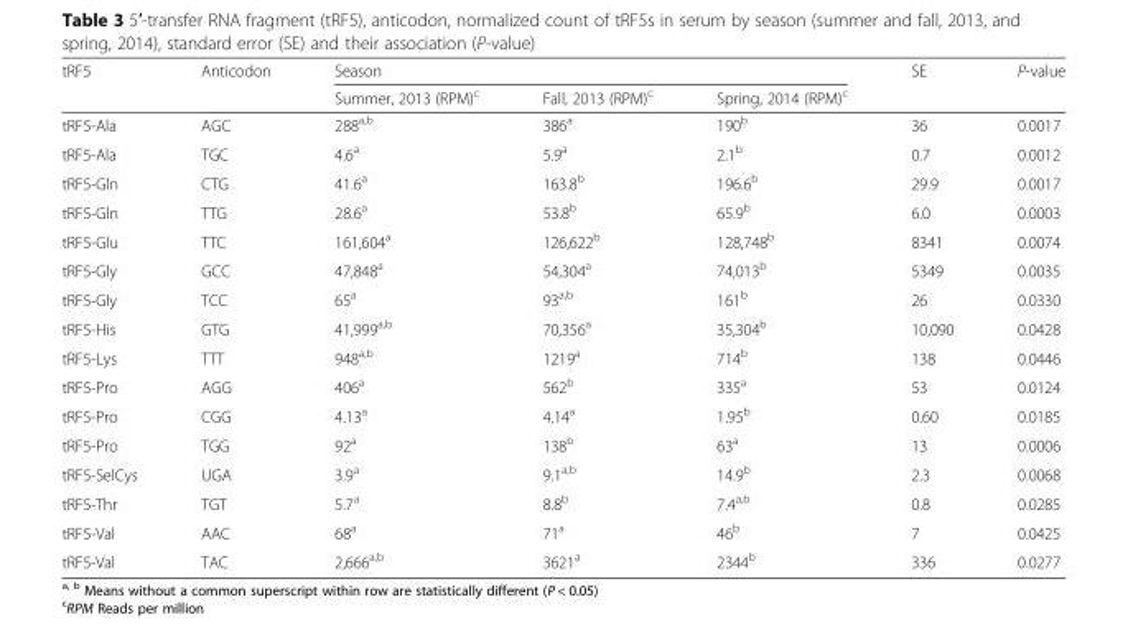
<table><thead><tr><td rowspan="2">tRF5</td><td rowspan="2">Anticodon</td><td colspan="3">Season</td><td rowspan="2">SE</td><td rowspan="2">P-value</td></tr><tr><td>Summer, 2013 (RPM)<sup>c</sup></td><td>Fall, 2013 (RPM)<sup>c</sup></td><td>Spring, 2014 (RPM)<sup>c</sup></td></tr></thead><tbody><tr><td>tRF5-Ala</td><td>AGC</td><td>288<sup>a,b</sup></td><td>386<sup>a</sup></td><td>190<sup>b</sup></td><td>36</td><td>0.0017</td></tr><tr><td>tRF5-Ala</td><td>TGC</td><td>4.6<sup>a</sup></td><td>5.9<sup>a</sup></td><td>2.1<sup>b</sup></td><td>0.7</td><td>0.0012</td></tr><tr><td>tRF5-Gln</td><td>CTG</td><td>41.6<sup>a</sup></td><td>163.8<sup>b</sup></td><td>196.6<sup>b</sup></td><td>29.9</td><td>0.0017</td></tr><tr><td>tRF5-Gln</td><td>TTG</td><td>28.6<sup>a</sup></td><td>53.8<sup>b</sup></td><td>65.9<sup>b</sup></td><td>6.0</td><td>0.0003</td></tr><tr><td>tRF5-Glu</td><td>TTC</td><td>161,604<sup>a</sup></td><td>126,622<sup>b</sup></td><td>128,748<sup>b</sup></td><td>8341</td><td>0.0074</td></tr><tr><td>tRF5-Gly</td><td>GCC</td><td>47,848<sup>a</sup></td><td>54,304<sup>a</sup></td><td>74,013<sup>b</sup></td><td>5349</td><td>0.0035</td></tr><tr><td>tRF5-Gly</td><td>TCC</td><td>65<sup>a</sup></td><td>93<sup>a,b</sup></td><td>161<sup>b</sup></td><td>26</td><td>0.0330</td></tr><tr><td>tRF5-His</td><td>GTG</td><td>41,999<sup>a,b</sup></td><td>70,356<sup>a</sup></td><td>35,304<sup>b</sup></td><td>10,090</td><td>0.0428</td></tr><tr><td>tRF5-Lys</td><td>TTT</td><td>948<sup>a,b</sup></td><td>1219<sup>a</sup></td><td>714<sup>b</sup></td><td>138</td><td>0.0446</td></tr><tr><td>tRF5-Pro</td><td>AGG</td><td>406<sup>a</sup></td><td>562<sup>b</sup></td><td>335<sup>a</sup></td><td>53</td><td>0.0124</td></tr><tr><td>tRF5-Pro</td><td>CGG</td><td>4.13<sup>a</sup></td><td>4.14<sup>a</sup></td><td>1.95<sup>b</sup></td><td>0.60</td><td>0.0185</td></tr><tr><td>tRF5-Pro</td><td>TGG</td><td>92<sup>a</sup></td><td>138<sup>b</sup></td><td>63<sup>a</sup></td><td>13</td><td>0.0006</td></tr><tr><td>tRF5-SelCys</td><td>UGA</td><td>3.9<sup>a</sup></td><td>9.1<sup>a,b</sup></td><td>14.9<sup>b</sup></td><td>2.3</td><td>0.0068</td></tr><tr><td>tRF5-Thr</td><td>TGT</td><td>5.7<sup>a</sup></td><td>8.8<sup>b</sup></td><td>7.4<sup>a,b</sup></td><td>0.8</td><td>0.0285</td></tr><tr><td>tRF5-Val</td><td>AAC</td><td>68<sup>a</sup></td><td>71<sup>a</sup></td><td>46<sup>b</sup></td><td>7</td><td>0.0425</td></tr><tr><td>tRF5-Val</td><td>TAC</td><td>2,666<sup>a,b</sup></td><td>3621<sup>a</sup></td><td>2344<sup>b</sup></td><td>336</td><td>0.0277</td></tr></tbody></table>